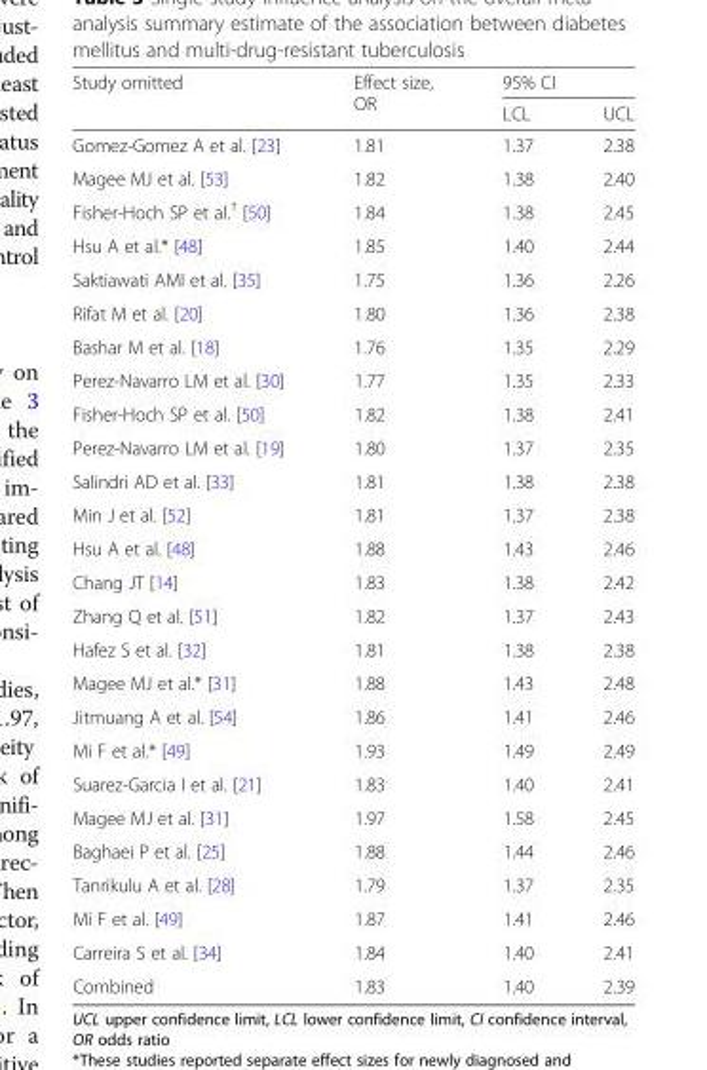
<table><thead><tr><td rowspan="2">Study omitted</td><td rowspan="2">Effect size, OR</td><td colspan="2">95% CI</td></tr><tr><td>LCL</td><td>UCL</td></tr></thead><tbody><tr><td>Gomez-Gomez A et al. [23]</td><td>1.81</td><td>1.37</td><td>2.38</td></tr><tr><td>Magee MJ et al. [53]</td><td>1.82</td><td>1.38</td><td>2.40</td></tr><tr><td>Fisher-Hoch SP et al.<sup>†</sup> [50]</td><td>1.84</td><td>1.38</td><td>2.45</td></tr><tr><td>Hsu A et al.* [48]</td><td>1.85</td><td>1.40</td><td>2.44</td></tr><tr><td>Saktiawati AMI et al. [35]</td><td>1.75</td><td>1.36</td><td>2.26</td></tr><tr><td>Rifat M et al. [20]</td><td>1.80</td><td>1.36</td><td>2.38</td></tr><tr><td>Bashar M et al. [18]</td><td>1.76</td><td>1.35</td><td>2.29</td></tr><tr><td>Perez-Navarro LM et al. [30]</td><td>1.77</td><td>1.35</td><td>2.33</td></tr><tr><td>Fisher-Hoch SP et al. [50]</td><td>1.82</td><td>1.38</td><td>2.41</td></tr><tr><td>Perez-Navarro LM et al. [19]</td><td>1.80</td><td>1.37</td><td>2.35</td></tr><tr><td>Salindri AD et al. [33]</td><td>1.81</td><td>1.38</td><td>2.38</td></tr><tr><td>Min J et al. [52]</td><td>1.81</td><td>1.37</td><td>2.38</td></tr><tr><td>Hsu A et al. [48]</td><td>1.88</td><td>1.43</td><td>2.46</td></tr><tr><td>Chang JT [14]</td><td>1.83</td><td>1.38</td><td>2.42</td></tr><tr><td>Zhang Q et al. [51]</td><td>1.82</td><td>1.37</td><td>2.43</td></tr><tr><td>Hafez S et al. [32]</td><td>1.81</td><td>1.38</td><td>2.38</td></tr><tr><td>Magee MJ et al.* [31]</td><td>1.88</td><td>1.43</td><td>2.48</td></tr><tr><td>Jitmuang A et al. [54]</td><td>1.86</td><td>1.41</td><td>2.46</td></tr><tr><td>Mi F et al.* [49]</td><td>1.93</td><td>1.49</td><td>2.49</td></tr><tr><td>Suarez-Garcia I et al. [21]</td><td>1.83</td><td>1.40</td><td>2.41</td></tr><tr><td>Magee MJ et al. [31]</td><td>1.97</td><td>1.58</td><td>2.45</td></tr><tr><td>Baghaei P et al. [25]</td><td>1.88</td><td>1.44</td><td>2.46</td></tr><tr><td>Tanrikulu A et al. [28]</td><td>1.79</td><td>1.37</td><td>2.35</td></tr><tr><td>Mi F et al. [49]</td><td>1.87</td><td>1.41</td><td>2.46</td></tr><tr><td>Carreira S et al. [34]</td><td>1.84</td><td>1.40</td><td>2.41</td></tr><tr><td>Combined</td><td>1.83</td><td>1.40</td><td>2.39</td></tr></tbody></table>